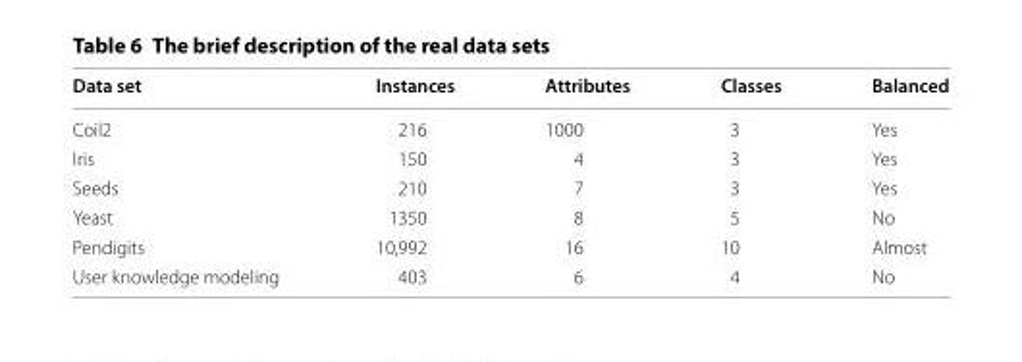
<table><thead><tr><td>Data set</td><td>Instances</td><td>Attributes</td><td>Classes</td><td>Balanced</td></tr></thead><tbody><tr><td>Coil2</td><td>216</td><td>1000</td><td>3</td><td>Yes</td></tr><tr><td>Iris</td><td>150</td><td>4</td><td>3</td><td>Yes</td></tr><tr><td>Seeds</td><td>210</td><td>7</td><td>3</td><td>Yes</td></tr><tr><td>Yeast</td><td>1350</td><td>8</td><td>5</td><td>No</td></tr><tr><td>Pendigits</td><td>10,992</td><td>16</td><td>10</td><td>Almost</td></tr><tr><td>User knowledge modeling</td><td>403</td><td>6</td><td>4</td><td>No</td></tr></tbody></table>